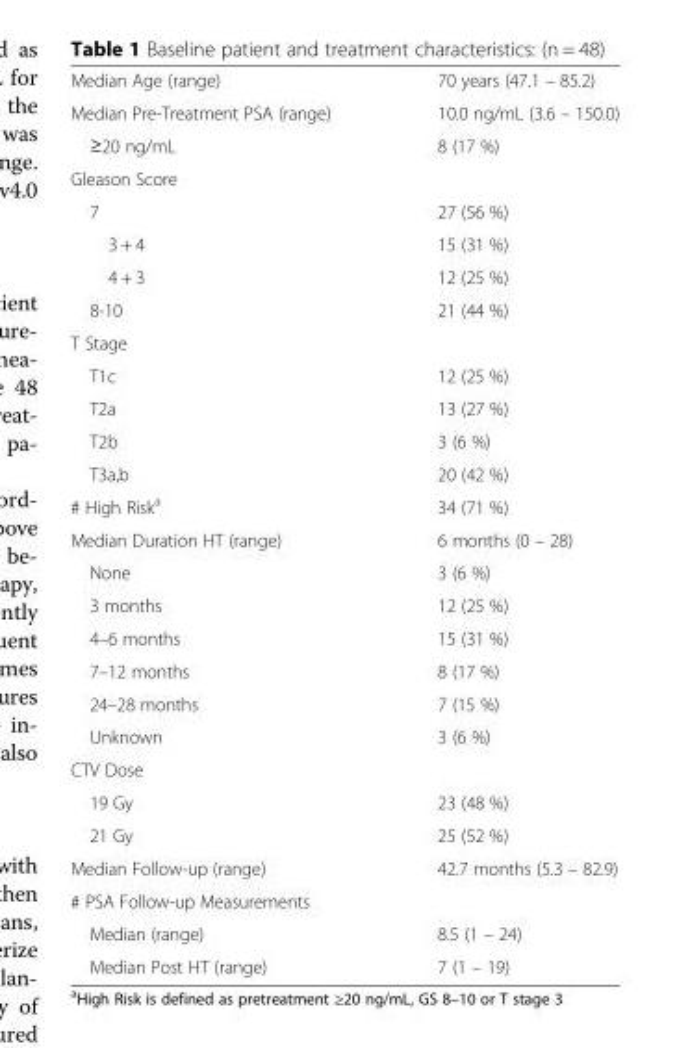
<table><tbody><tr><td>Median Age (range)</td><td>70 years (47.1 – 85.2)</td></tr><tr><td>Median Pre-Treatment PSA (range)</td><td>10.0 ng/mL (3.6 – 150.0)</td></tr><tr><td>≥20 ng/mL</td><td>8 (17 %)</td></tr><tr><td colspan="2">Gleason Score</td></tr><tr><td>7</td><td>27 (56 %)</td></tr><tr><td>3 + 4</td><td>15 (31 %)</td></tr><tr><td>4 + 3</td><td>12 (25 %)</td></tr><tr><td>8-10</td><td>21 (44 %)</td></tr><tr><td colspan="2">T Stage</td></tr><tr><td>T1c</td><td>12 (25 %)</td></tr><tr><td>T2a</td><td>13 (27 %)</td></tr><tr><td>T2b</td><td>3 (6 %)</td></tr><tr><td>T3a,b</td><td>20 (42 %)</td></tr><tr><td># High Risk<sup>a</sup></td><td>34 (71 %)</td></tr><tr><td>Median Duration HT (range)</td><td>6 months (0 – 28)</td></tr><tr><td>None</td><td>3 (6 %)</td></tr><tr><td>3 months</td><td>12 (25 %)</td></tr><tr><td>4–6 months</td><td>15 (31 %)</td></tr><tr><td>7–12 months</td><td>8 (17 %)</td></tr><tr><td>24–28 months</td><td>7 (15 %)</td></tr><tr><td>Unknown</td><td>3 (6 %)</td></tr><tr><td colspan="2">CTV Dose</td></tr><tr><td>19 Gy</td><td>23 (48 %)</td></tr><tr><td>21 Gy</td><td>25 (52 %)</td></tr><tr><td>Median Follow-up (range)</td><td>42.7 months (5.3 – 82.9)</td></tr><tr><td colspan="2"># PSA Follow-up Measurements</td></tr><tr><td>Median (range)</td><td>8.5 (1 – 24)</td></tr><tr><td>Median Post HT (range)</td><td>7 (1 – 19)</td></tr></tbody></table>